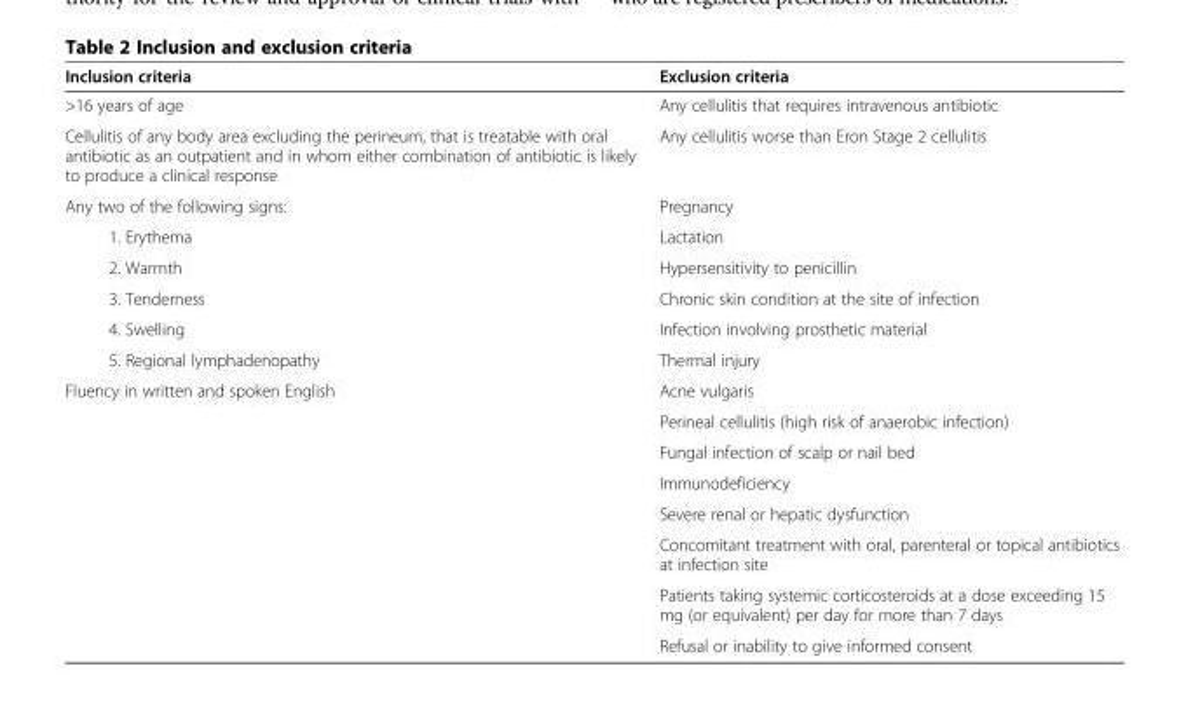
<table><thead><tr><td>Inclusion criteria</td><td>Exclusion criteria</td></tr></thead><tbody><tr><td>&gt;16 years of age</td><td>Any cellulitis that requires intravenous antibiotic</td></tr><tr><td>Cellulitis of any body area excluding the perineum, that is treatable with oral antibiotic as an outpatient and in whom either combination of antibiotic is likely to produce a clinical response</td><td>Any cellulitis worse than Eron Stage 2 cellulitis</td></tr><tr><td>Any two of the following signs:</td><td>Pregnancy</td></tr><tr><td>1. Erythema</td><td>Lactation</td></tr><tr><td>2. Warmth</td><td>Hypersensitivity to penicillin</td></tr><tr><td>3. Tenderness</td><td>Chronic skin condition at the site of infection</td></tr><tr><td>4. Swelling</td><td>Infection involving prosthetic material</td></tr><tr><td>5. Regional lymphadenopathy</td><td>Thermal injury</td></tr><tr><td rowspan="8">Fluency in written and spoken English</td><td>Acne vulgaris</td></tr><tr><td>Perineal cellulitis (high risk of anaerobic infection)</td></tr><tr><td>Fungal infection of scalp or nail bed</td></tr><tr><td>Immunodeficiency</td></tr><tr><td>Severe renal or hepatic dysfunction</td></tr><tr><td>Concomitant treatment with oral, parenteral or topical antibiotics at infection site</td></tr><tr><td>Patients taking systemic corticosteroids at a dose exceeding 15 mg (or equivalent) per day for more than 7 days</td></tr><tr><td>Refusal or inability to give informed consent</td></tr></tbody></table>